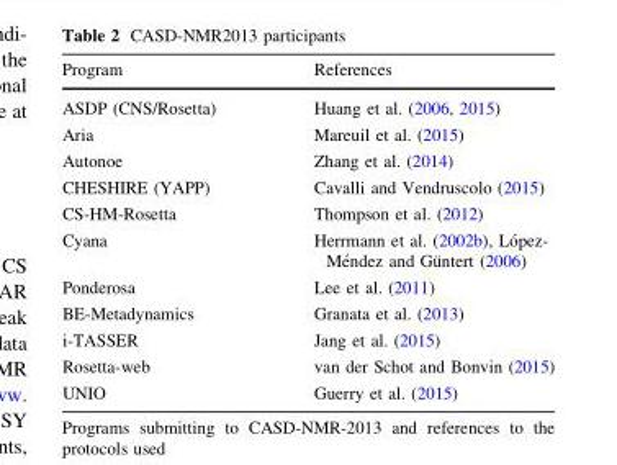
<table><thead><tr><td>Program</td><td>References</td></tr></thead><tbody><tr><td>ASDP (CNS/Rosetta)</td><td>Huang et al. (2006, 2015)</td></tr><tr><td>Aria</td><td>Mareuil et al. (2015)</td></tr><tr><td>Autonoe</td><td>Zhang et al. (2014)</td></tr><tr><td>CHESHIRE (YAPP)</td><td>Cavalli and Vendruscolo (2015)</td></tr><tr><td>CS-HM-Rosetta</td><td>Thompson et al. (2012)</td></tr><tr><td>Cyana</td><td>Herrmann et al. (2002b), Lo´pez- Me´ndez and Gu¨ntert (2006)</td></tr><tr><td>Ponderosa</td><td>Lee et al. (2011)</td></tr><tr><td>BE-Metadynamics</td><td>Granata et al. (2013)</td></tr><tr><td>i-TASSER</td><td>Jang et al. (2015)</td></tr><tr><td>Rosetta-web</td><td>van der Schot and Bonvin (2015)</td></tr><tr><td>UNIO</td><td>Guerry et al. (2015)</td></tr></tbody></table>